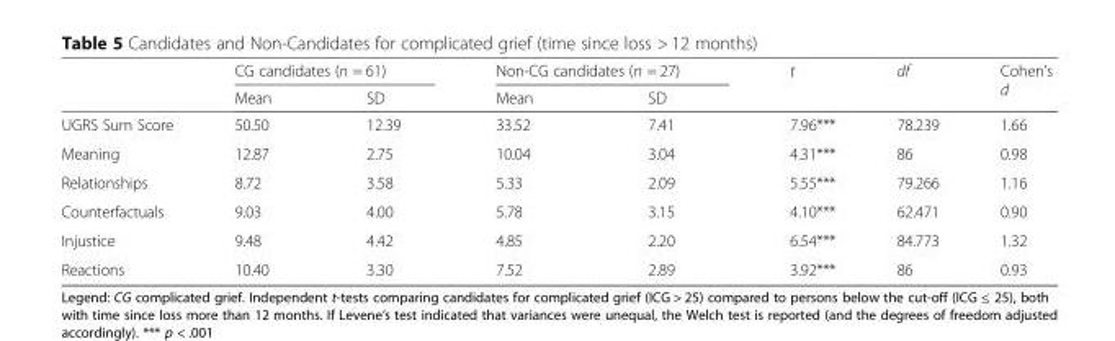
<table><thead><tr><td rowspan="2"></td><td colspan="2">CG candidates (n = 61)</td><td colspan="2">Non-CG candidates (n = 27)</td><td rowspan="2">t</td><td rowspan="2">df</td><td rowspan="2">Cohen’s d</td></tr><tr><td>Mean</td><td>SD</td><td>Mean</td><td>SD</td></tr></thead><tbody><tr><td>UGRS Sum Score</td><td>50.50</td><td>12.39</td><td>33.52</td><td>7.41</td><td>7.96***</td><td>78.239</td><td>1.66</td></tr><tr><td>Meaning</td><td>12.87</td><td>2.75</td><td>10.04</td><td>3.04</td><td>4.31***</td><td>86</td><td>0.98</td></tr><tr><td>Relationships</td><td>8.72</td><td>3.58</td><td>5.33</td><td>2.09</td><td>5.55***</td><td>79.266</td><td>1.16</td></tr><tr><td>Counterfactuals</td><td>9.03</td><td>4.00</td><td>5.78</td><td>3.15</td><td>4.10***</td><td>62.471</td><td>0.90</td></tr><tr><td>Injustice</td><td>9.48</td><td>4.42</td><td>4.85</td><td>2.20</td><td>6.54***</td><td>84.773</td><td>1.32</td></tr><tr><td>Reactions</td><td>10.40</td><td>3.30</td><td>7.52</td><td>2.89</td><td>3.92***</td><td>86</td><td>0.93</td></tr></tbody></table>